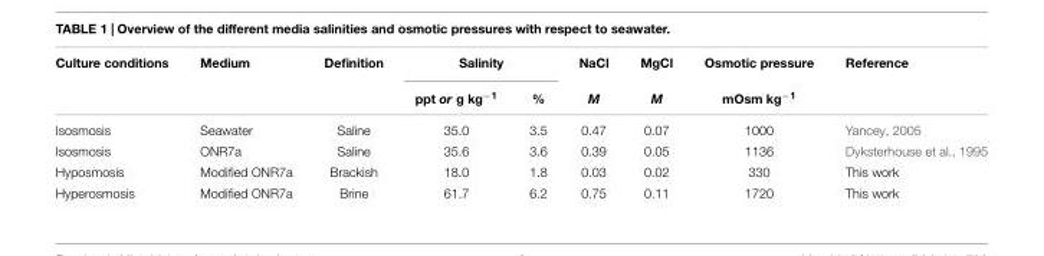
<table><thead><tr><td rowspan="2">Culture conditions</td><td rowspan="2">Medium</td><td rowspan="2">Definition</td><td colspan="2">Salinity</td><td rowspan="2">NaCl M</td><td rowspan="2">MgCl M</td><td rowspan="2">Osmotic pressure mOsm kg<sup>−1</sup></td><td rowspan="2">Reference</td></tr><tr><td>ppt or g kg<sup>−1</sup></td><td>%</td></tr></thead><tbody><tr><td>Isosmosis</td><td>Seawater</td><td>Saline</td><td>35.0</td><td>3.5</td><td>0.47</td><td>0.07</td><td>1000</td><td>Yancey, 2005</td></tr><tr><td>Isosmosis</td><td>ONR7a</td><td>Saline</td><td>35.6</td><td>3.6</td><td>0.39</td><td>0.05</td><td>1136</td><td>Dyksterhouse et al., 1995</td></tr><tr><td>Hyposmosis</td><td>Modified ONR7a</td><td>Brackish</td><td>18.0</td><td>1.8</td><td>0.03</td><td>0.02</td><td>330</td><td>This work</td></tr><tr><td>Hyperosmosis</td><td>Modified ONR7a</td><td>Brine</td><td>61.7</td><td>6.2</td><td>0.75</td><td>0.11</td><td>1720</td><td>This work</td></tr></tbody></table>